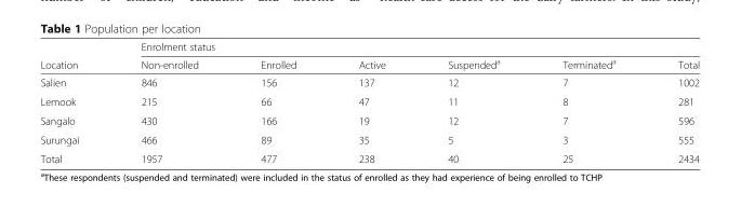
<table><thead><tr><td rowspan="2">Location</td><td colspan="6">Enrolment status</td></tr><tr><td>Non-enrolled</td><td>Enrolled</td><td>Active</td><td>Suspended<sup>a</sup></td><td>Terminated<sup>a</sup></td><td>Total</td></tr></thead><tbody><tr><td>Salien</td><td>846</td><td>156</td><td>137</td><td>12</td><td>7</td><td>1002</td></tr><tr><td>Lemook</td><td>215</td><td>66</td><td>47</td><td>11</td><td>8</td><td>281</td></tr><tr><td>Sangalo</td><td>430</td><td>166</td><td>19</td><td>12</td><td>7</td><td>596</td></tr><tr><td>Surungai</td><td>466</td><td>89</td><td>35</td><td>5</td><td>3</td><td>555</td></tr><tr><td>Total</td><td>1957</td><td>477</td><td>238</td><td>40</td><td>25</td><td>2434</td></tr></tbody></table>